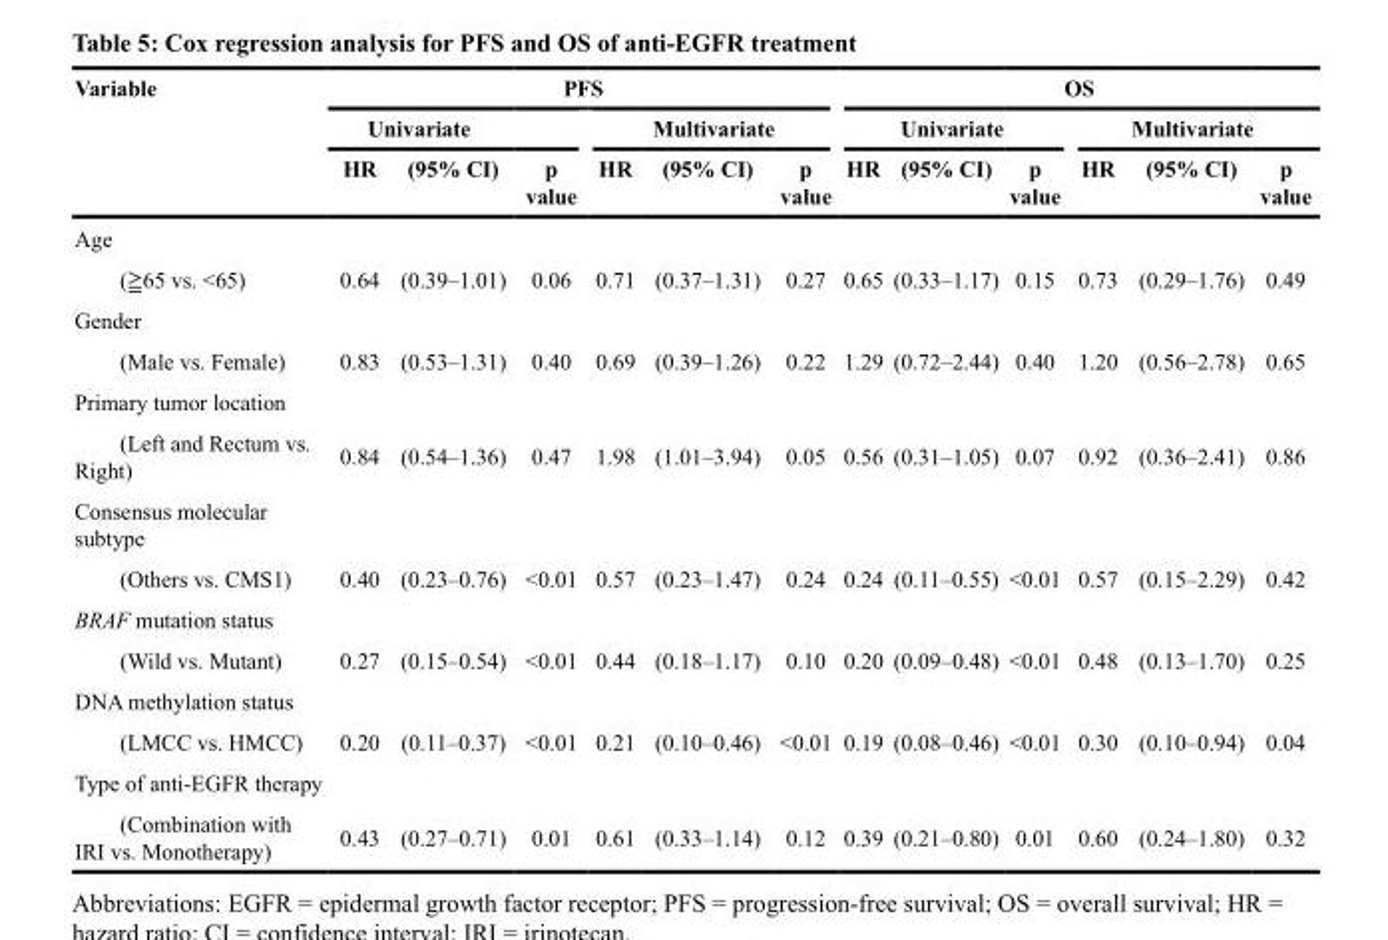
<table><thead><tr><td rowspan="3">Variable</td><td colspan="6">PFS</td><td colspan="6">OS</td></tr><tr><td colspan="3">Univariate</td><td colspan="3">Multivariate</td><td colspan="3">Univariate</td><td colspan="3">Multivariate</td></tr><tr><td>HR</td><td>(95% CI)</td><td>p value</td><td>HR</td><td>(95% CI)</td><td>p value</td><td>HR</td><td>(95% CI)</td><td>p value</td><td>HR</td><td>(95% CI)</td><td>p value</td></tr></thead><tbody><tr><td colspan="13">Age</td></tr><tr><td>(≧65 vs. &lt;65)</td><td>0.64</td><td>(0.39–1.01)</td><td>0.06</td><td>0.71</td><td>(0.37–1.31)</td><td>0.27</td><td>0.65</td><td>(0.33–1.17)</td><td>0.15</td><td>0.73</td><td>(0.29–1.76)</td><td>0.49</td></tr><tr><td colspan="13">Gender</td></tr><tr><td>(Male vs. Female)</td><td>0.83</td><td>(0.53–1.31)</td><td>0.40</td><td>0.69</td><td>(0.39–1.26)</td><td>0.22</td><td>1.29</td><td>(0.72–2.44)</td><td>0.40</td><td>1.20</td><td>(0.56–2.78)</td><td>0.65</td></tr><tr><td colspan="13">Primary tumor location</td></tr><tr><td>(Left and Rectum vs. Right)</td><td>0.84</td><td>(0.54–1.36)</td><td>0.47</td><td>1.98</td><td>(1.01–3.94)</td><td>0.05</td><td>0.56</td><td>(0.31–1.05)</td><td>0.07</td><td>0.92</td><td>(0.36–2.41)</td><td>0.86</td></tr><tr><td colspan="13">Consensus molecular subtype</td></tr><tr><td>(Others vs. CMS1)</td><td>0.40</td><td>(0.23–0.76)</td><td>&lt;0.01</td><td>0.57</td><td>(0.23–1.47)</td><td>0.24</td><td>0.24</td><td>(0.11–0.55)</td><td>&lt;0.01</td><td>0.57</td><td>(0.15–2.29)</td><td>0.42</td></tr><tr><td colspan="13">BRAF mutation status</td></tr><tr><td>(Wild vs. Mutant)</td><td>0.27</td><td>(0.15–0.54)</td><td>&lt;0.01</td><td>0.44</td><td>(0.18–1.17)</td><td>0.10</td><td>0.20</td><td>(0.09–0.48)</td><td>&lt;0.01</td><td>0.48</td><td>(0.13–1.70)</td><td>0.25</td></tr><tr><td colspan="13">DNA methylation status</td></tr><tr><td>(LMCC vs. HMCC)</td><td>0.20</td><td>(0.11–0.37)</td><td>&lt;0.01</td><td>0.21</td><td>(0.10–0.46)</td><td>&lt;0.01</td><td>0.19</td><td>(0.08–0.46)</td><td>&lt;0.01</td><td>0.30</td><td>(0.10–0.94)</td><td>0.04</td></tr><tr><td colspan="13">Type of anti-EGFR therapy</td></tr><tr><td>(Combination with IRI vs. Monotherapy)</td><td>0.43</td><td>(0.27–0.71)</td><td>0.01</td><td>0.61</td><td>(0.33–1.14)</td><td>0.12</td><td>0.39</td><td>(0.21–0.80)</td><td>0.01</td><td>0.60</td><td>(0.24–1.80)</td><td>0.32</td></tr></tbody></table>